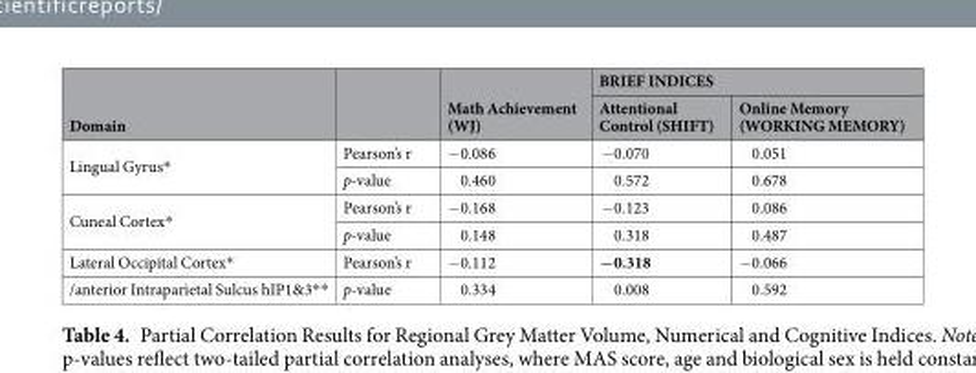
<table><thead><tr><td rowspan="2">Domain</td><td rowspan="2"></td><td rowspan="2">Math Achievement (WJ)</td><td colspan="2">BRIEF INDICES</td></tr><tr><td>Attentional Control (SHIFT)</td><td>Online Memory (WORKING MEMORY)</td></tr></thead><tbody><tr><td rowspan="2">Lingual Gyrus*</td><td>Pearson’s r</td><td>−0.086</td><td>−0.070</td><td>0.051</td></tr><tr><td>p-value</td><td>0.460</td><td>0.572</td><td>0.678</td></tr><tr><td rowspan="2">Cuneal Cortex*</td><td>Pearson’s r</td><td>−0.168</td><td>−0.123</td><td>0.086</td></tr><tr><td>p-value</td><td>0.148</td><td>0.318</td><td>0.487</td></tr><tr><td>Lateral Occipital Cortex*</td><td>Pearson’s r</td><td>−0.112</td><td>−0.318</td><td>−0.066</td></tr><tr><td>/anterior Intraparietal Sulcus hIP1&amp;3**</td><td>p-value</td><td>0.334</td><td>0.008</td><td>0.592</td></tr></tbody></table>